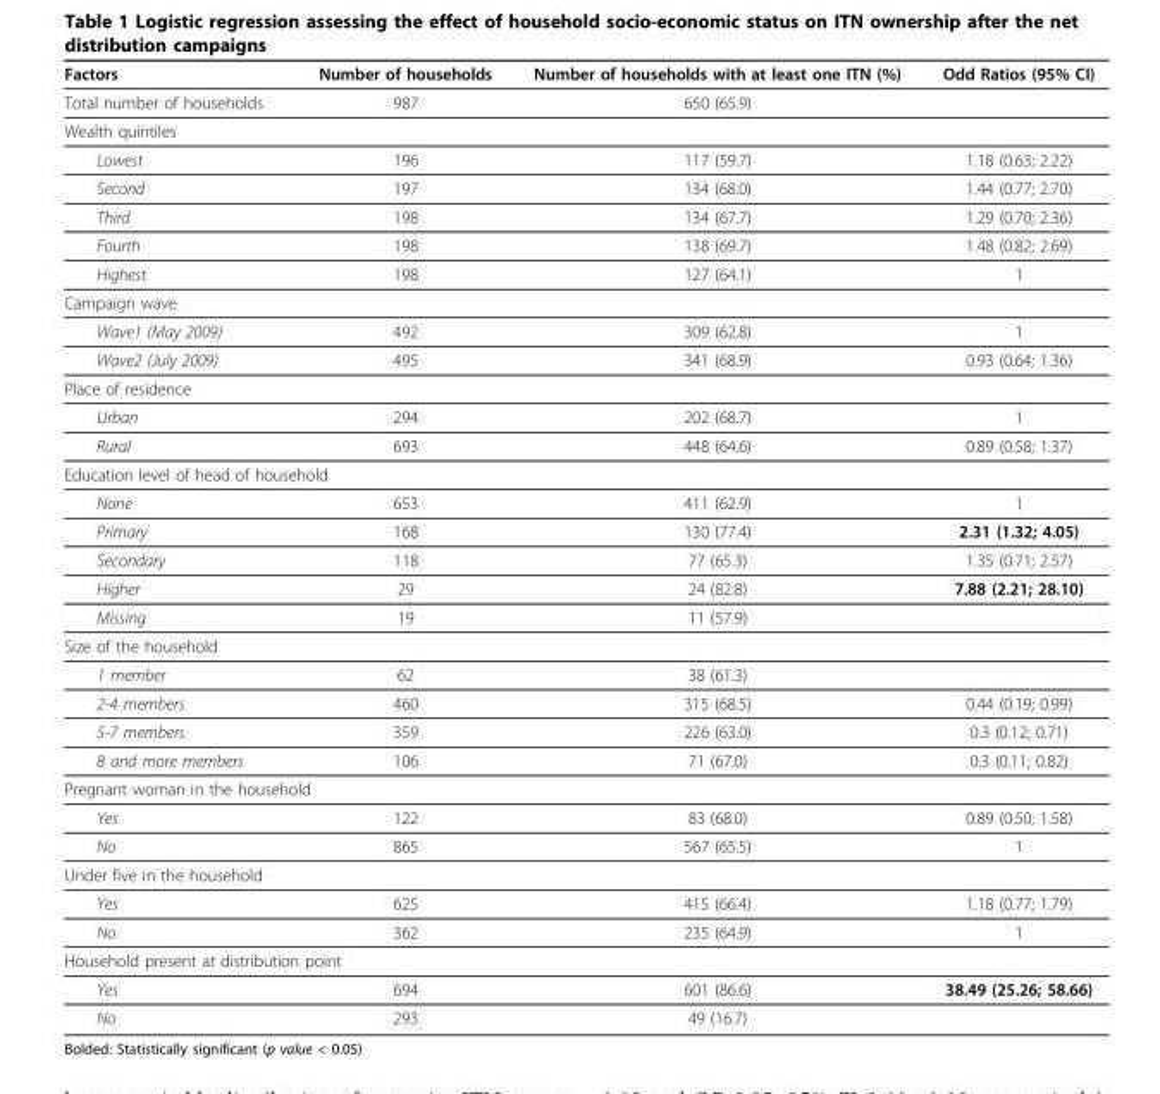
<table><thead><tr><td>Factors</td><td>Number of households</td><td>Number of households with at least one ITN (%)</td><td>Odd Ratios (95% CI)</td></tr></thead><tbody><tr><td>Total number of households</td><td>987</td><td>650 (65.9)</td><td></td></tr><tr><td colspan="4">Wealth quintiles</td></tr><tr><td>Lowest</td><td>196</td><td>117 (59.7)</td><td>1.18 (0.63; 2.22)</td></tr><tr><td>Second</td><td>197</td><td>134 (68.0)</td><td>1.44 (0.77; 2.70)</td></tr><tr><td>Third</td><td>198</td><td>134 (67.7)</td><td>1.29 (0.70; 2.36)</td></tr><tr><td>Fourth</td><td>198</td><td>138 (69.7)</td><td>1.48 (0.82; 2.69)</td></tr><tr><td>Highest</td><td>198</td><td>127 (64.1)</td><td>1</td></tr><tr><td colspan="4">Campaign wave</td></tr><tr><td>Wave1 (May 2009)</td><td>492</td><td>309 (62.8)</td><td>1</td></tr><tr><td>Wave2 (July 2009)</td><td>495</td><td>341 (68.9)</td><td>0.93 (0.64; 1.36)</td></tr><tr><td colspan="4">Place of residence</td></tr><tr><td>Urban</td><td>294</td><td>202 (68.7)</td><td>1</td></tr><tr><td>Rural</td><td>693</td><td>448 (64.6)</td><td>0.89 (0.58; 1.37)</td></tr><tr><td colspan="4">Education level of head of household</td></tr><tr><td>None</td><td>653</td><td>411 (62.9)</td><td>1</td></tr><tr><td>Primary</td><td>168</td><td>130 (77.4)</td><td>2.31 (1.32; 4.05)</td></tr><tr><td>Secondary</td><td>118</td><td>77 (65.3)</td><td>1.35 (0.71; 2.57)</td></tr><tr><td>Higher</td><td>29</td><td>24 (82.8)</td><td>7.88 (2.21; 28.10)</td></tr><tr><td>Missing</td><td>19</td><td>11 (57.9)</td><td></td></tr><tr><td colspan="4">Size of the household</td></tr><tr><td>1 member</td><td>62</td><td>38 (61.3)</td><td></td></tr><tr><td>2-4 members</td><td>460</td><td>315 (68.5)</td><td>0.44 (0.19; 0.99)</td></tr><tr><td>5-7 members</td><td>359</td><td>226 (63.0)</td><td>0.3 (0.12; 0.71)</td></tr><tr><td>8 and more members</td><td>106</td><td>71 (67.0)</td><td>0.3 (0.11; 0.82)</td></tr><tr><td colspan="4">Pregnant woman in the household</td></tr><tr><td>Yes</td><td>122</td><td>83 (68.0)</td><td>0.89 (0.50; 1.58)</td></tr><tr><td>No</td><td>865</td><td>567 (65.5)</td><td>1</td></tr><tr><td colspan="4">Under five in the household</td></tr><tr><td>Yes</td><td>625</td><td>415 (66.4)</td><td>1.18 (0.77; 1.79)</td></tr><tr><td>No</td><td>362</td><td>235 (64.9)</td><td>1</td></tr><tr><td colspan="4">Household present at distribution point</td></tr><tr><td>Yes</td><td>694</td><td>601 (86.6)</td><td>38.49 (25.26; 58.66)</td></tr><tr><td>No</td><td>293</td><td>49 (16.7)</td><td></td></tr></tbody></table>